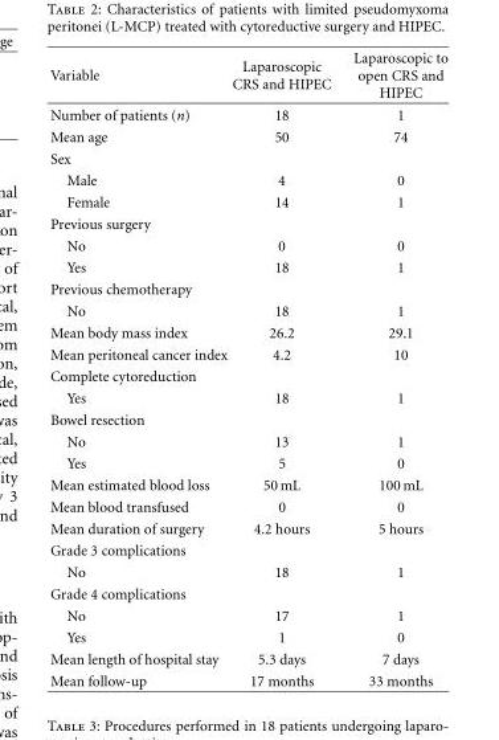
<table><thead><tr><td>Variable</td><td>Laparoscopic CRS and HIPEC</td><td>Laparoscopic to open CRS and HIPEC</td></tr></thead><tbody><tr><td>Number of patients (n)</td><td>18</td><td>1</td></tr><tr><td>Mean age</td><td>50</td><td>74</td></tr><tr><td colspan="3">Sex</td></tr><tr><td>Male</td><td>4</td><td>0</td></tr><tr><td>Female</td><td>14</td><td>1</td></tr><tr><td colspan="3">Previous surgery</td></tr><tr><td>No</td><td>0</td><td>0</td></tr><tr><td>Yes</td><td>18</td><td>1</td></tr><tr><td colspan="3">Previous chemotherapy</td></tr><tr><td>No</td><td>18</td><td>1</td></tr><tr><td>Mean body mass index</td><td>26.2</td><td>29.1</td></tr><tr><td>Mean peritoneal cancer index</td><td>4.2</td><td>10</td></tr><tr><td colspan="3">Complete cytoreduction</td></tr><tr><td>Yes</td><td>18</td><td>1</td></tr><tr><td colspan="3">Bowel resection</td></tr><tr><td>No</td><td>13</td><td>1</td></tr><tr><td>Yes</td><td>5</td><td>0</td></tr><tr><td>Mean estimated blood loss</td><td>50 mL</td><td>100 mL</td></tr><tr><td>Mean blood transfused</td><td>0</td><td>0</td></tr><tr><td>Mean duration of surgery</td><td>4.2 hours</td><td>5 hours</td></tr><tr><td colspan="3">Grade 3 complications</td></tr><tr><td>No</td><td>18</td><td>1</td></tr><tr><td colspan="3">Grade 4 complications</td></tr><tr><td>No</td><td>17</td><td>1</td></tr><tr><td>Yes</td><td>1</td><td>0</td></tr><tr><td>Mean length of hospital stay</td><td>5.3 days</td><td>7 days</td></tr><tr><td>Mean follow-up</td><td>17 months</td><td>33 months</td></tr></tbody></table>